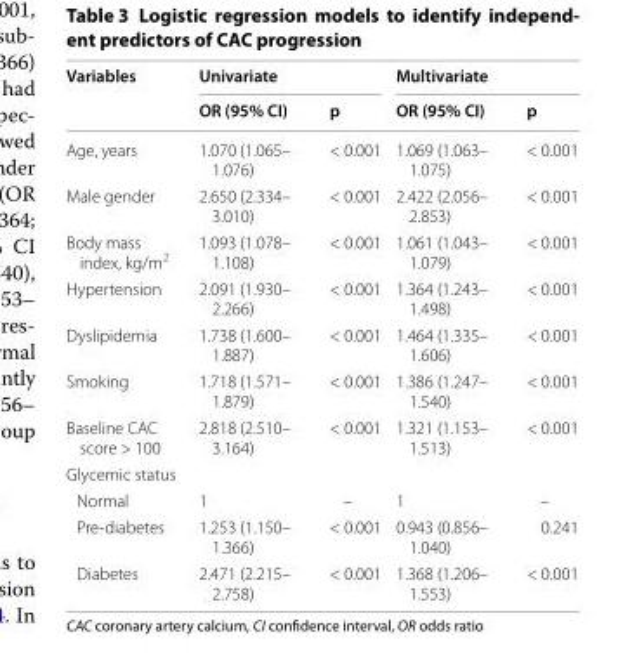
<table><thead><tr><td rowspan="2">Variables</td><td colspan="2">Univariate</td><td colspan="2">Multivariate</td></tr><tr><td>OR (95% CI)</td><td>p</td><td>OR (95% CI)</td><td>p</td></tr></thead><tbody><tr><td>Age, years</td><td>1.070 (1.065– 1.076)</td><td>&lt; 0.001</td><td>1.069 (1.063– 1.075)</td><td>&lt; 0.001</td></tr><tr><td>Male gender</td><td>2.650 (2.334– 3.010)</td><td>&lt; 0.001</td><td>2.422 (2.056– 2.853)</td><td>&lt; 0.001</td></tr><tr><td>Body mass index, kg/m<sup>2</sup></td><td>1.093 (1.078– 1.108)</td><td>&lt; 0.001</td><td>1.061 (1.043– 1.079)</td><td>&lt; 0.001</td></tr><tr><td>Hypertension</td><td>2.091 (1.930– 2.266)</td><td>&lt; 0.001</td><td>1.364 (1.243– 1.498)</td><td>&lt; 0.001</td></tr><tr><td>Dyslipidemia</td><td>1.738 (1.600– 1.887)</td><td>&lt; 0.001</td><td>1.464 (1.335– 1.606)</td><td>&lt; 0.001</td></tr><tr><td>Smoking</td><td>1.718 (1.571– 1.879)</td><td>&lt; 0.001</td><td>1.386 (1.247– 1.540)</td><td>&lt; 0.001</td></tr><tr><td>Baseline CAC score &gt; 100</td><td>2.818 (2.510– 3.164)</td><td>&lt; 0.001</td><td>1.321 (1.153– 1.513)</td><td>&lt; 0.001</td></tr><tr><td colspan="5">Glycemic status</td></tr><tr><td>Normal</td><td>1</td><td>–</td><td>1</td><td>–</td></tr><tr><td>Pre‑diabetes</td><td>1.253 (1.150– 1.366)</td><td>&lt; 0.001</td><td>0.943 (0.856– 1.040)</td><td>0.241</td></tr><tr><td>Diabetes</td><td>2.471 (2.215– 2.758)</td><td>&lt; 0.001</td><td>1.368 (1.206– 1.553)</td><td>&lt; 0.001</td></tr></tbody></table>